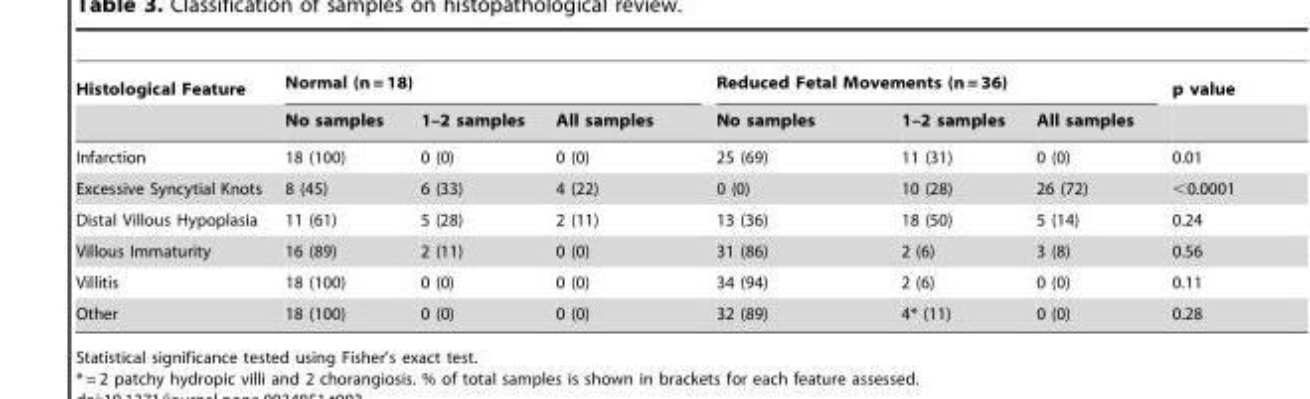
<table><thead><tr><td rowspan="2">Histological Feature</td><td colspan="3">Normal (n = 18)</td><td colspan="3">Reduced Fetal Movements (n = 36)</td><td rowspan="2">p value</td></tr><tr><td>No samples</td><td>1–2 samples</td><td>All samples</td><td>No samples</td><td>1–2 samples</td><td>All samples</td></tr></thead><tbody><tr><td>Infarction</td><td>18 (100)</td><td>0 (0)</td><td>0 (0)</td><td>25 (69)</td><td>11 (31)</td><td>0 (0)</td><td>0.01</td></tr><tr><td>Excessive Syncytial Knots</td><td>8 (45)</td><td>6 (33)</td><td>4 (22)</td><td>0 (0)</td><td>10 (28)</td><td>26 (72)</td><td>&lt;0.0001</td></tr><tr><td>Distal Villous Hypoplasia</td><td>11 (61)</td><td>5 (28)</td><td>2 (11)</td><td>13 (36)</td><td>18 (50)</td><td>5 (14)</td><td>0.24</td></tr><tr><td>Villous Immaturity</td><td>16 (89)</td><td>2 (11)</td><td>0 (0)</td><td>31 (86)</td><td>2 (6)</td><td>3 (8)</td><td>0.56</td></tr><tr><td>Villitis</td><td>18 (100)</td><td>0 (0)</td><td>0 (0)</td><td>34 (94)</td><td>2 (6)</td><td>0 (0)</td><td>0.11</td></tr><tr><td>Other</td><td>18 (100)</td><td>0 (0)</td><td>0 (0)</td><td>32 (89)</td><td>4* (11)</td><td>0 (0)</td><td>0.28</td></tr></tbody></table>